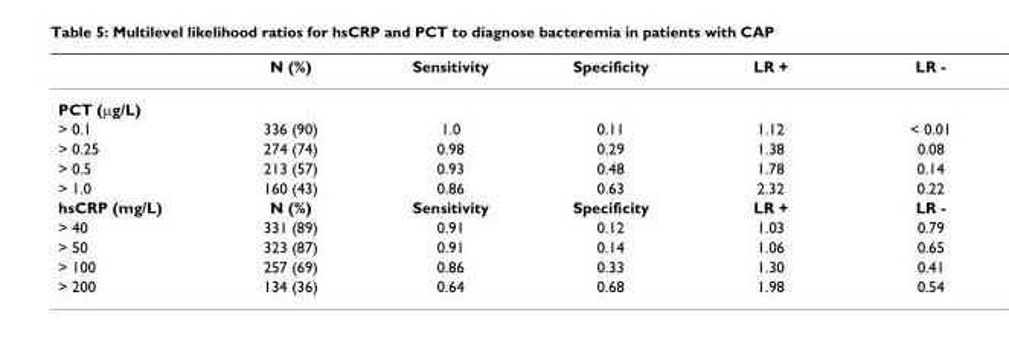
<table><thead><tr><td></td><td>N (%)</td><td>Sensitivity</td><td>Specificity</td><td>LR +</td><td>LR -</td></tr></thead><tbody><tr><td colspan="6">PCT (µg/L)</td></tr><tr><td>&gt; 0.1</td><td>336 (90)</td><td>1.0</td><td>0.11</td><td>1.12</td><td>&lt; 0.01</td></tr><tr><td>&gt; 0.25</td><td>274 (74)</td><td>0.98</td><td>0.29</td><td>1.38</td><td>0.08</td></tr><tr><td>&gt; 0.5</td><td>213 (57)</td><td>0.93</td><td>0.48</td><td>1.78</td><td>0.14</td></tr><tr><td>&gt; 1.0</td><td>160 (43)</td><td>0.86</td><td>0.63</td><td>2.32</td><td>0.22</td></tr><tr><td>hsCRP (mg/L)</td><td>N (%)</td><td>Sensitivity</td><td>Specificity</td><td>LR +</td><td>LR -</td></tr><tr><td>&gt; 40</td><td>331 (89)</td><td>0.91</td><td>0.12</td><td>1.03</td><td>0.79</td></tr><tr><td>&gt; 50</td><td>323 (87)</td><td>0.91</td><td>0.14</td><td>1.06</td><td>0.65</td></tr><tr><td>&gt; 100</td><td>257 (69)</td><td>0.86</td><td>0.33</td><td>1.30</td><td>0.41</td></tr><tr><td>&gt; 200</td><td>134 (36)</td><td>0.64</td><td>0.68</td><td>1.98</td><td>0.54</td></tr></tbody></table>